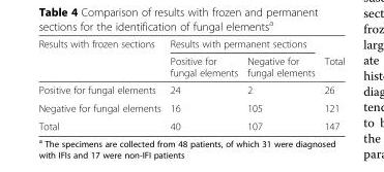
<table><thead><tr><td rowspan="2">Results with frozen sections</td><td colspan="2">Results with permanent sections</td><td rowspan="2">Total</td></tr><tr><td>Positive for fungal elements</td><td>Negative for fungal elements</td></tr></thead><tbody><tr><td>Positive for fungal elements</td><td>24</td><td>2</td><td>26</td></tr><tr><td>Negative for fungal elements</td><td>16</td><td>105</td><td>121</td></tr><tr><td>Total</td><td>40</td><td>107</td><td>147</td></tr></tbody></table>